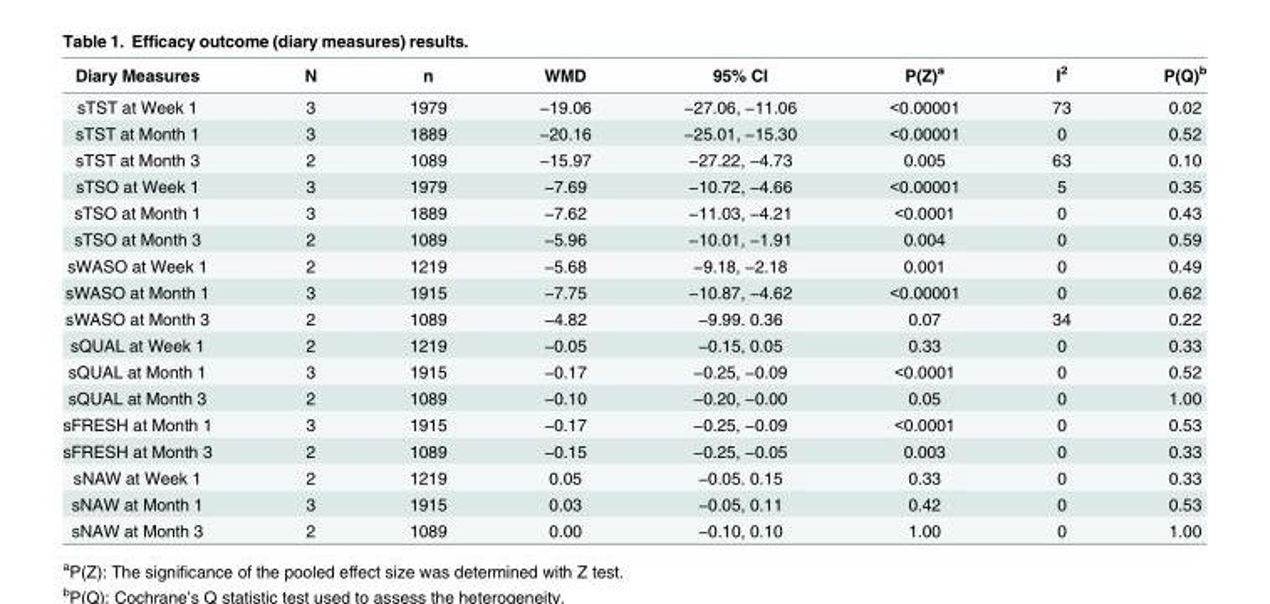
<table><thead><tr><td>Diary Measures</td><td>N</td><td>n</td><td>WMD</td><td>95% CI</td><td>P(Z)<sup>a</sup></td><td>I<sup>2</sup></td><td>P(Q)<sup>b</sup></td></tr></thead><tbody><tr><td>sTST at Week 1</td><td>3</td><td>1979</td><td>−19.06</td><td>−27.06, −11.06</td><td>&lt;0.00001</td><td>73</td><td>0.02</td></tr><tr><td>sTST at Month 1</td><td>3</td><td>1889</td><td>−20.16</td><td>−25.01, −15.30</td><td>&lt;0.00001</td><td>0</td><td>0.52</td></tr><tr><td>sTST at Month 3</td><td>2</td><td>1089</td><td>−15.97</td><td>−27.22, −4.73</td><td>0.005</td><td>63</td><td>0.10</td></tr><tr><td>sTSO at Week 1</td><td>3</td><td>1979</td><td>−7.69</td><td>−10.72, −4.66</td><td>&lt;0.00001</td><td>5</td><td>0.35</td></tr><tr><td>sTSO at Month 1</td><td>3</td><td>1889</td><td>−7.62</td><td>−11.03, −4.21</td><td>&lt;0.0001</td><td>0</td><td>0.43</td></tr><tr><td>sTSO at Month 3</td><td>2</td><td>1089</td><td>−5.96</td><td>−10.01, −1.91</td><td>0.004</td><td>0</td><td>0.59</td></tr><tr><td>sWASO at Week 1</td><td>2</td><td>1219</td><td>−5.68</td><td>−9.18, −2.18</td><td>0.001</td><td>0</td><td>0.49</td></tr><tr><td>sWASO at Month 1</td><td>3</td><td>1915</td><td>−7.75</td><td>−10.87, −4.62</td><td>&lt;0.00001</td><td>0</td><td>0.62</td></tr><tr><td>sWASO at Month 3</td><td>2</td><td>1089</td><td>−4.82</td><td>−9.99. 0.36</td><td>0.07</td><td>34</td><td>0.22</td></tr><tr><td>sQUAL at Week 1</td><td>2</td><td>1219</td><td>−0.05</td><td>−0.15, 0.05</td><td>0.33</td><td>0</td><td>0.33</td></tr><tr><td>sQUAL at Month 1</td><td>3</td><td>1915</td><td>−0.17</td><td>−0.25, −0.09</td><td>&lt;0.0001</td><td>0</td><td>0.52</td></tr><tr><td>sQUAL at Month 3</td><td>2</td><td>1089</td><td>−0.10</td><td>−0.20, −0.00</td><td>0.05</td><td>0</td><td>1.00</td></tr><tr><td>sFRESH at Month 1</td><td>3</td><td>1915</td><td>−0.17</td><td>−0.25, −0.09</td><td>&lt;0.0001</td><td>0</td><td>0.53</td></tr><tr><td>sFRESH at Month 3</td><td>2</td><td>1089</td><td>−0.15</td><td>−0.25, −0.05</td><td>0.003</td><td>0</td><td>0.33</td></tr><tr><td>sNAW at Week 1</td><td>2</td><td>1219</td><td>0.05</td><td>−0.05. 0.15</td><td>0.33</td><td>0</td><td>0.33</td></tr><tr><td>sNAW at Month 1</td><td>3</td><td>1915</td><td>0.03</td><td>−0.05, 0.11</td><td>0.42</td><td>0</td><td>0.53</td></tr><tr><td>sNAW at Month 3</td><td>2</td><td>1089</td><td>0.00</td><td>−0.10, 0.10</td><td>1.00</td><td>0</td><td>1.00</td></tr></tbody></table>